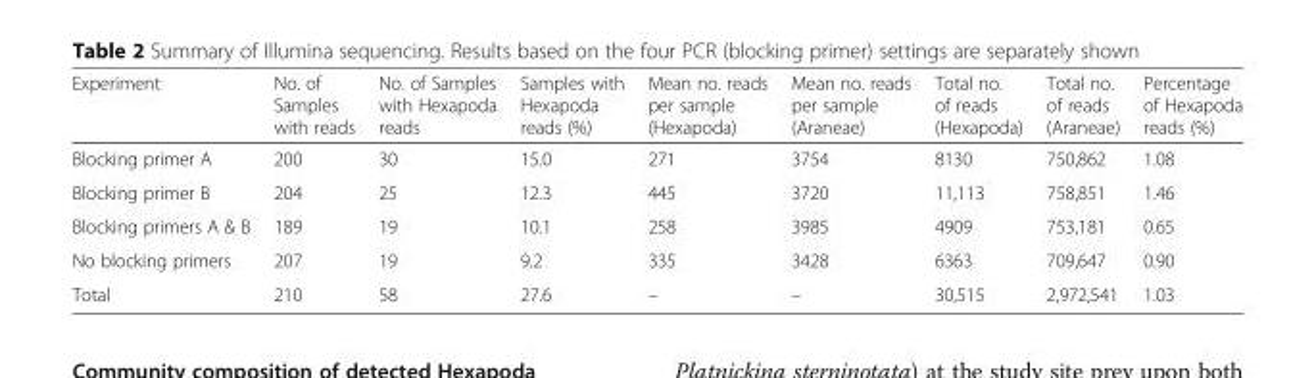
<table><thead><tr><td>Experiment</td><td>No. of Samples with reads</td><td>No. of Samples with Hexapoda reads</td><td>Samples with Hexapoda reads (%)</td><td>Mean no. reads per sample (Hexapoda)</td><td>Mean no. reads per sample (Araneae)</td><td>Total no. of reads (Hexapoda)</td><td>Total no. of reads (Araneae)</td><td>Percentage of Hexapoda reads (%)</td></tr></thead><tbody><tr><td>Blocking primer A</td><td>200</td><td>30</td><td>15.0</td><td>271</td><td>3754</td><td>8130</td><td>750,862</td><td>1.08</td></tr><tr><td>Blocking primer B</td><td>204</td><td>25</td><td>12.3</td><td>445</td><td>3720</td><td>11,113</td><td>758,851</td><td>1.46</td></tr><tr><td>Blocking primers A &amp; B</td><td>189</td><td>19</td><td>10.1</td><td>258</td><td>3985</td><td>4909</td><td>753,181</td><td>0.65</td></tr><tr><td>No blocking primers</td><td>207</td><td>19</td><td>9.2</td><td>335</td><td>3428</td><td>6363</td><td>709,647</td><td>0.90</td></tr><tr><td>Total</td><td>210</td><td>58</td><td>27.6</td><td>–</td><td>–</td><td>30,515</td><td>2,972,541</td><td>1.03</td></tr></tbody></table>